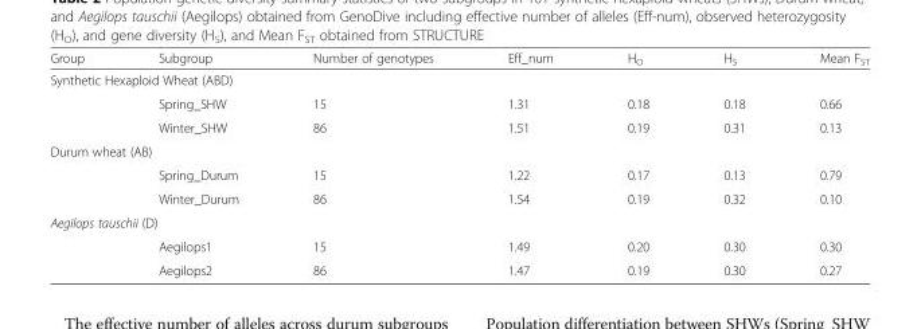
<table><thead><tr><td>Group</td><td>Subgroup</td><td>Number of genotypes</td><td>Eff_num</td><td>H<sub>O</sub></td><td>H<sub>S</sub></td><td>Mean F<sub>ST</sub></td></tr></thead><tbody><tr><td colspan="7">Synthetic Hexaploid Wheat (ABD)</td></tr><tr><td rowspan="2"></td><td>Spring_SHW</td><td>15</td><td>1.31</td><td>0.18</td><td>0.18</td><td>0.66</td></tr><tr><td>Winter_SHW</td><td>86</td><td>1.51</td><td>0.19</td><td>0.31</td><td>0.13</td></tr><tr><td colspan="7">Durum wheat (AB)</td></tr><tr><td rowspan="2"></td><td>Spring_Durum</td><td>15</td><td>1.22</td><td>0.17</td><td>0.13</td><td>0.79</td></tr><tr><td>Winter_Durum</td><td>86</td><td>1.54</td><td>0.19</td><td>0.32</td><td>0.10</td></tr><tr><td colspan="7">Aegilops tauschii (D)</td></tr><tr><td rowspan="2"></td><td>Aegilops1</td><td>15</td><td>1.49</td><td>0.20</td><td>0.30</td><td>0.30</td></tr><tr><td>Aegilops2</td><td>86</td><td>1.47</td><td>0.19</td><td>0.30</td><td>0.27</td></tr></tbody></table>